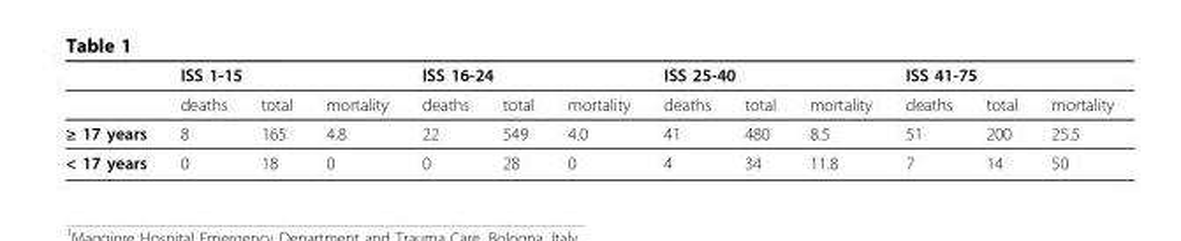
<table><thead><tr><td rowspan="2"></td><td colspan="3">ISS 1-15</td><td colspan="3">ISS 16-24</td><td colspan="3">ISS 25-40</td><td colspan="3">ISS 41-75</td></tr><tr><td>deaths</td><td>total</td><td>mortality</td><td>deaths</td><td>total</td><td>mortality</td><td>deaths</td><td>total</td><td>mortality</td><td>deaths</td><td>total</td><td>mortality</td></tr></thead><tbody><tr><td>≥ 17 years</td><td>8</td><td>165</td><td>4.8</td><td>22</td><td>549</td><td>4.0</td><td>41</td><td>480</td><td>8.5</td><td>51</td><td>200</td><td>25.5</td></tr><tr><td>&lt; 17 years</td><td>0</td><td>18</td><td>0</td><td>0</td><td>28</td><td>0</td><td>4</td><td>34</td><td>11.8</td><td>7</td><td>14</td><td>50</td></tr></tbody></table>